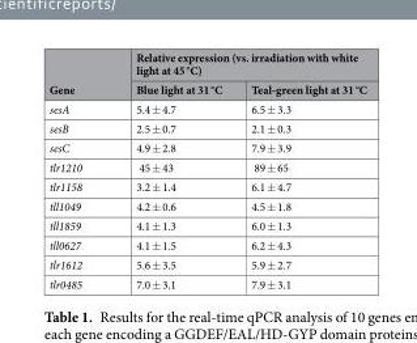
<table><thead><tr><td rowspan="2">Gene</td><td colspan="2">Relative expression (vs. irradiation with white light at 45 °C)</td></tr><tr><td>Blue light at 31 °C</td><td>Teal-green light at 31 °C</td></tr></thead><tbody><tr><td>sesA</td><td>5.4 ± 4.7</td><td>6.5 ± 3.3</td></tr><tr><td>sesB</td><td>2.5 ± 0.7</td><td>2.1 ± 0.3</td></tr><tr><td>sesC</td><td>4.9 ± 2.8</td><td>7.9 ± 3.9</td></tr><tr><td>tlr1210</td><td>45 ± 43</td><td>89 ± 65</td></tr><tr><td>tlr1158</td><td>3.2 ± 1.4</td><td>6.1 ± 4.7</td></tr><tr><td>tll1049</td><td>4.2 ± 0.6</td><td>4.5 ± 1.8</td></tr><tr><td>tll1859</td><td>4.1 ± 1.3</td><td>6.0 ± 1.3</td></tr><tr><td>tll0627</td><td>4.1 ± 1.5</td><td>6.2 ± 4.3</td></tr><tr><td>tlr1612</td><td>5.6 ± 3.5</td><td>5.9 ± 2.7</td></tr><tr><td>tlr0485</td><td>7.0 ± 3.1</td><td>7.9 ± 3.1</td></tr></tbody></table>